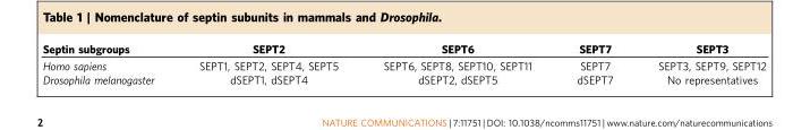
<table><thead><tr><td>Septin subgroups</td><td>SEPT2</td><td>SEPT6</td><td>SEPT7</td><td>SEPT3</td></tr></thead><tbody><tr><td>Homo sapiens</td><td>SEPT1, SEPT2, SEPT4, SEPT5</td><td>SEPT6, SEPT8, SEPT10, SEPT11</td><td>SEPT7</td><td>SEPT3, SEPT9, SEPT12</td></tr><tr><td>Drosophila melanogaster</td><td>dSEPT1, dSEPT4</td><td>dSEPT2, dSEPT5</td><td>dSEPT7</td><td>No representatives</td></tr></tbody></table>